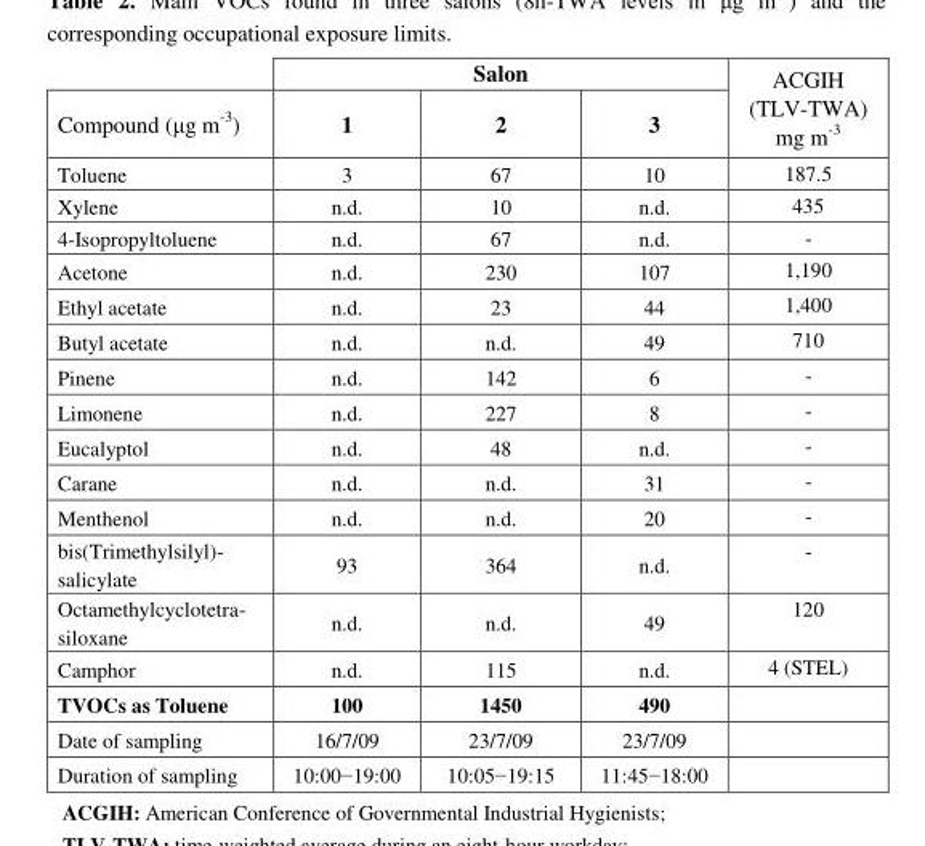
<table><thead><tr><td rowspan="2">Compound (μg m<sup>-3</sup>)</td><td colspan="3">Salon</td><td rowspan="2">ACGIH (TLV-TWA) mg m<sup>-3</sup></td></tr><tr><td>1</td><td>2</td><td>3</td></tr></thead><tbody><tr><td>Toluene</td><td>3</td><td>67</td><td>10</td><td>187.5</td></tr><tr><td>Xylene</td><td>n.d.</td><td>10</td><td>n.d.</td><td>435</td></tr><tr><td>4-Isopropyltoluene</td><td>n.d.</td><td>67</td><td>n.d.</td><td>-</td></tr><tr><td>Acetone</td><td>n.d.</td><td>230</td><td>107</td><td>1,190</td></tr><tr><td>Ethyl acetate</td><td>n.d.</td><td>23</td><td>44</td><td>1,400</td></tr><tr><td>Butyl acetate</td><td>n.d.</td><td>n.d.</td><td>49</td><td>710</td></tr><tr><td>Pinene</td><td>n.d.</td><td>142</td><td>6</td><td>-</td></tr><tr><td>Limonene</td><td>n.d.</td><td>227</td><td>8</td><td>-</td></tr><tr><td>Eucalyptol</td><td>n.d.</td><td>48</td><td>n.d.</td><td>-</td></tr><tr><td>Carane</td><td>n.d.</td><td>n.d.</td><td>31</td><td>-</td></tr><tr><td>Menthenol</td><td>n.d.</td><td>n.d.</td><td>20</td><td>-</td></tr><tr><td>bis(Trimethylsilyl)- salicylate</td><td>93</td><td>364</td><td>n.d.</td><td>-</td></tr><tr><td>Octamethylcyclotetra- siloxane</td><td>n.d.</td><td>n.d.</td><td>49</td><td>120</td></tr><tr><td>Camphor</td><td>n.d.</td><td>115</td><td>n.d.</td><td>4 (STEL)</td></tr><tr><td>TVOCs as Toluene</td><td>100</td><td>1450</td><td>490</td><td></td></tr><tr><td>Date of sampling</td><td>16/7/09</td><td>23/7/09</td><td>23/7/09</td><td></td></tr><tr><td>Duration of sampling</td><td>10:00−19:00</td><td>10:05−19:15</td><td>11:45−18:00</td><td></td></tr></tbody></table>